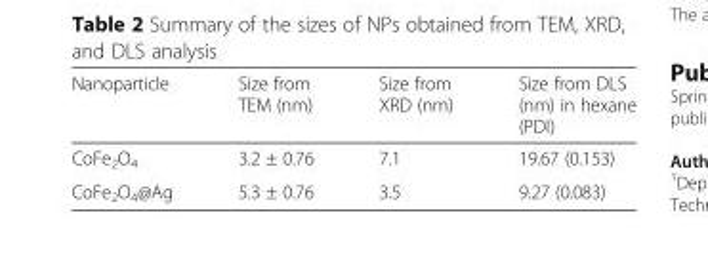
<table><thead><tr><td>Nanoparticle</td><td>Size from TEM (nm)</td><td>Size from XRD (nm)</td><td>Size from DLS (nm) in hexane (PDI)</td></tr></thead><tbody><tr><td>CoFe<sub>2</sub>O<sub>4</sub></td><td>3.2 ± 0.76</td><td>7.1</td><td>19.67 (0.153)</td></tr><tr><td>CoFe<sub>2</sub>O<sub>4</sub>@Ag</td><td>5.3 ± 0.76</td><td>3.5</td><td>9.27 (0.083)</td></tr></tbody></table>